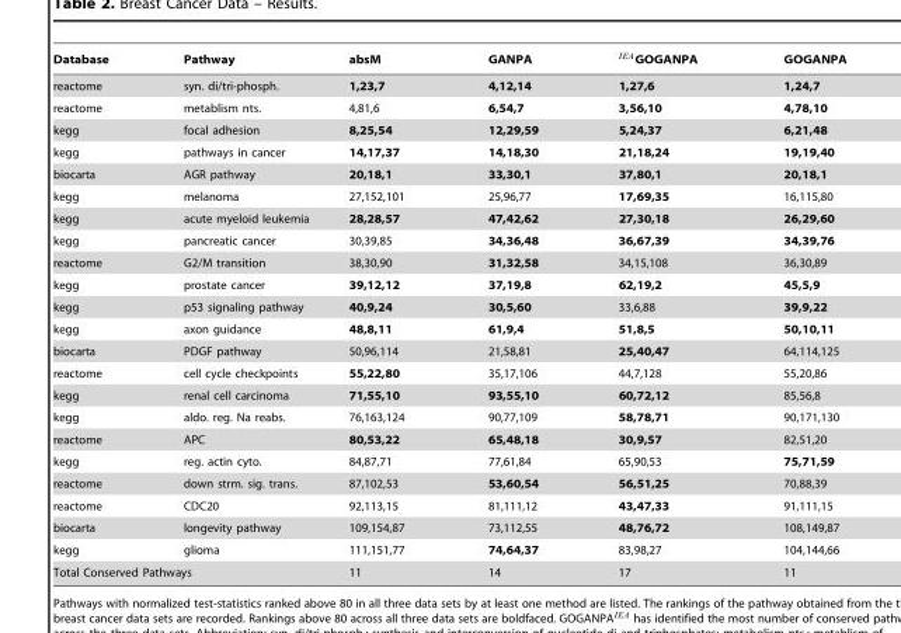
<table><thead><tr><td>Database</td><td>Pathway</td><td>absM</td><td>GANPA</td><td>IEAGOGANPA</td><td>GOGANPA</td></tr></thead><tbody><tr><td>reactome</td><td>syn. di/tri-phosph.</td><td>1,23,7</td><td>4,12,14</td><td>1,27,6</td><td>1,24,7</td></tr><tr><td>reactome</td><td>metablism nts.</td><td>4,81,6</td><td>6,54,7</td><td>3,56,10</td><td>4,78,10</td></tr><tr><td>kegg</td><td>focal adhesion</td><td>8,25,54</td><td>12,29,59</td><td>5,24,37</td><td>6,21,48</td></tr><tr><td>kegg</td><td>pathways in cancer</td><td>14,17,37</td><td>14,18,30</td><td>21,18,24</td><td>19,19,40</td></tr><tr><td>biocarta</td><td>AGR pathway</td><td>20,18,1</td><td>33,30,1</td><td>37,80,1</td><td>20,18,1</td></tr><tr><td>kegg</td><td>melanoma</td><td>27,152,101</td><td>25,96,77</td><td>17,69,35</td><td>16,115,80</td></tr><tr><td>kegg</td><td>acute myeloid leukemia</td><td>28,28,57</td><td>47,42,62</td><td>27,30,18</td><td>26,29,60</td></tr><tr><td>kegg</td><td>pancreatic cancer</td><td>30,39,85</td><td>34,36,48</td><td>36,67,39</td><td>34,39,76</td></tr><tr><td>reactome</td><td>G2/M transition</td><td>38,30,90</td><td>31,32,58</td><td>34,15,108</td><td>36,30,89</td></tr><tr><td>kegg</td><td>prostate cancer</td><td>39,12,12</td><td>37,19,8</td><td>62,19,2</td><td>45,5,9</td></tr><tr><td>kegg</td><td>p53 signaling pathway</td><td>40,9,24</td><td>30,5,60</td><td>33,6,88</td><td>39,9,22</td></tr><tr><td>kegg</td><td>axon guidance</td><td>48,8,11</td><td>61,9,4</td><td>51,8,5</td><td>50,10,11</td></tr><tr><td>biocarta</td><td>PDGF pathway</td><td>50,96,114</td><td>21,58,81</td><td>25,40,47</td><td>64,114,125</td></tr><tr><td>reactome</td><td>cell cycle checkpoints</td><td>55,22,80</td><td>35,17,106</td><td>44,7,128</td><td>55,20,86</td></tr><tr><td>kegg</td><td>renal cell carcinoma</td><td>71,55,10</td><td>93,55,10</td><td>60,72,12</td><td>85,56,8</td></tr><tr><td>kegg</td><td>aldo. reg. Na reabs.</td><td>76,163,124</td><td>90,77,109</td><td>58,78,71</td><td>90,171,130</td></tr><tr><td>reactome</td><td>APC</td><td>80,53,22</td><td>65,48,18</td><td>30,9,57</td><td>82,51,20</td></tr><tr><td>kegg</td><td>reg. actin cyto.</td><td>84,87,71</td><td>77,61,84</td><td>65,90,53</td><td>75,71,59</td></tr><tr><td>reactome</td><td>down strm. sig. trans.</td><td>87,102,53</td><td>53,60,54</td><td>56,51,25</td><td>70,88,39</td></tr><tr><td>reactome</td><td>CDC20</td><td>92,113,15</td><td>81,111,12</td><td>43,47,33</td><td>91,111,15</td></tr><tr><td>biocarta</td><td>longevity pathway</td><td>109,154,87</td><td>73,112,55</td><td>48,76,72</td><td>108,149,87</td></tr><tr><td>kegg</td><td>glioma</td><td>111,151,77</td><td>74,64,37</td><td>83,98,27</td><td>104,144,66</td></tr><tr><td colspan="2">Total Conserved Pathways</td><td>11</td><td>14</td><td>17</td><td>11</td></tr></tbody></table>